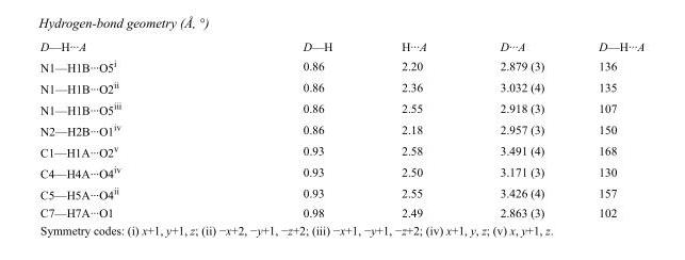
<table><tbody><tr><td>D—H···A</td><td>D—H</td><td>H···A</td><td>D···A</td><td>D—H···A</td></tr><tr><td>N1—H1B···O5<sup>i</sup></td><td>0.86</td><td>2.20</td><td>2.879 (3)</td><td>136</td></tr><tr><td>N1—H1B···O2<sup>ii</sup></td><td>0.86</td><td>2.36</td><td>3.032 (4)</td><td>135</td></tr><tr><td>N1—H1B···O5<sup>iii</sup></td><td>0.86</td><td>2.55</td><td>2.918 (3)</td><td>107</td></tr><tr><td>N2—H2B···O1<sup>iv</sup></td><td>0.86</td><td>2.18</td><td>2.957 (3)</td><td>150</td></tr><tr><td>C1—H1A···O2<sup>v</sup></td><td>0.93</td><td>2.58</td><td>3.491 (4)</td><td>168</td></tr><tr><td>C4—H4A···O4<sup>iv</sup></td><td>0.93</td><td>2.50</td><td>3.171 (3)</td><td>130</td></tr><tr><td>C5—H5A···O4<sup>ii</sup></td><td>0.93</td><td>2.55</td><td>3.426 (4)</td><td>157</td></tr><tr><td>C7—H7A···O1</td><td>0.98</td><td>2.49</td><td>2.863 (3)</td><td>102</td></tr></tbody></table>